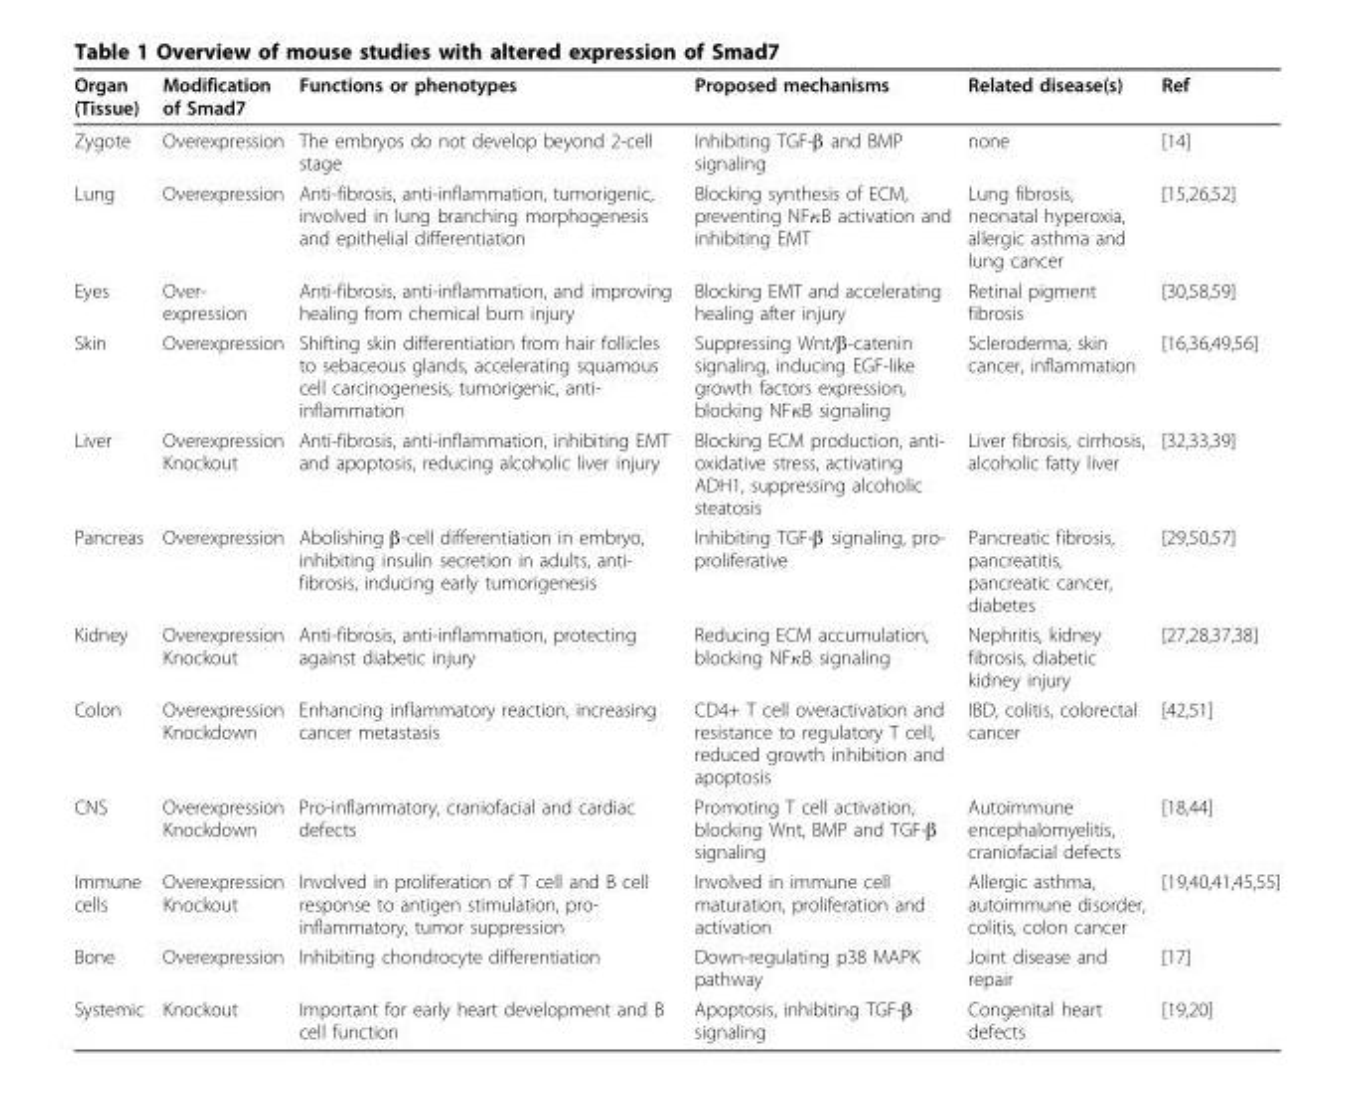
<table><thead><tr><td>Organ (Tissue)</td><td>Modification of Smad7</td><td>Functions or phenotypes</td><td>Proposed mechanisms</td><td>Related disease(s)</td><td>Ref</td></tr></thead><tbody><tr><td>Zygote</td><td>Overexpression</td><td>The embryos do not develop beyond 2-cell stage</td><td>Inhibiting TGF-β and BMP signaling</td><td>none</td><td>[14]</td></tr><tr><td>Lung</td><td>Overexpression</td><td>Anti-fibrosis, anti-inflammation, tumorigenic, involved in lung branching morphogenesis and epithelial differentiation</td><td>Blocking synthesis of ECM, preventing NFκB activation and inhibiting EMT</td><td>Lung fibrosis, neonatal hyperoxia, allergic asthma and lung cancer</td><td>[15,26,52]</td></tr><tr><td>Eyes</td><td>Over- expression</td><td>Anti-fibrosis, anti-inflammation, and improving healing from chemical burn injury</td><td>Blocking EMT and accelerating healing after injury</td><td>Retinal pigment fibrosis</td><td>[30,58,59]</td></tr><tr><td>Skin</td><td>Overexpression</td><td>Shifting skin differentiation from hair follicles to sebaceous glands, accelerating squamous cell carcinogenesis, tumorigenic, anti- inflammation</td><td>Suppressing Wnt/β-catenin signaling, inducing EGF-like growth factors expression, blocking NFκB signaling</td><td>Scleroderma, skin cancer, inflammation</td><td>[16,36,49,56]</td></tr><tr><td>Liver</td><td>Overexpression Knockout</td><td>Anti-fibrosis, anti-inflammation, inhibiting EMT and apoptosis, reducing alcoholic liver injury</td><td>Blocking ECM production, anti- oxidative stress, activating ADH1, suppressing alcoholic steatosis</td><td>Liver fibrosis, cirrhosis, alcoholic fatty liver</td><td>[32,33,39]</td></tr><tr><td>Pancreas</td><td>Overexpression</td><td>Abolishing β-cell differentiation in embryo, inhibiting insulin secretion in adults, anti- fibrosis, inducing early tumorigenesis</td><td>Inhibiting TGF-β signaling, pro- proliferative</td><td>Pancreatic fibrosis, pancreatitis, pancreatic cancer, diabetes</td><td>[29,50,57]</td></tr><tr><td>Kidney</td><td>Overexpression Knockout</td><td>Anti-fibrosis, anti-inflammation, protecting against diabetic injury</td><td>Reducing ECM accumulation, blocking NFκB signaling</td><td>Nephritis, kidney fibrosis, diabetic kidney injury</td><td>[27,28,37,38]</td></tr><tr><td>Colon</td><td>Overexpression Knockdown</td><td>Enhancing inflammatory reaction, increasing cancer metastasis</td><td>CD4+ T cell overactivation and resistance to regulatory T cell, reduced growth inhibition and apoptosis</td><td>IBD, colitis, colorectal cancer</td><td>[42,51]</td></tr><tr><td>CNS</td><td>Overexpression Knockdown</td><td>Pro-inflammatory, craniofacial and cardiac defects</td><td>Promoting T cell activation, blocking Wnt, BMP and TGF-β signaling</td><td>Autoimmune encephalomyelitis, craniofacial defects</td><td>[18,44]</td></tr><tr><td>Immune cells</td><td>Overexpression Knockout</td><td>Involved in proliferation of T cell and B cell response to antigen stimulation, pro- inflammatory, tumor suppression</td><td>Involved in immune cell maturation, proliferation and activation</td><td>Allergic asthma, autoimmune disorder, colitis, colon cancer</td><td>[19,40,41,45,55]</td></tr><tr><td>Bone</td><td>Overexpression</td><td>Inhibiting chondrocyte differentiation</td><td>Down-regulating p38 MAPK pathway</td><td>Joint disease and repair</td><td>[17]</td></tr><tr><td>Systemic</td><td>Knockout</td><td>Important for early heart development and B cell function</td><td>Apoptosis, inhibiting TGF-β signaling</td><td>Congenital heart defects</td><td>[19,20]</td></tr></tbody></table>